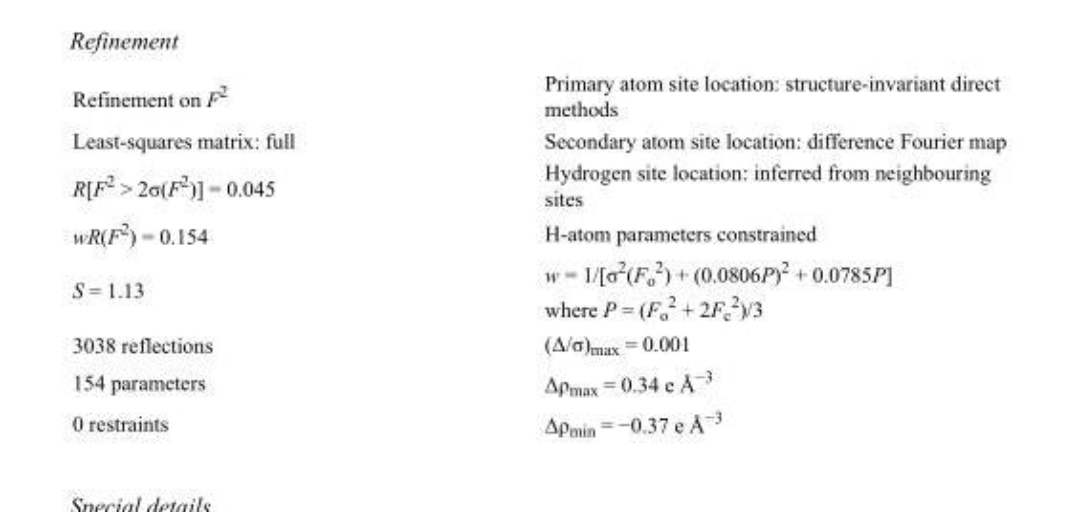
<table><tbody><tr><td>Refinement on F<sup>2</sup></td><td>Primary atom site location: structure-invariant direct methods</td></tr><tr><td>Least-squares matrix: full</td><td>Secondary atom site location: difference Fourier map</td></tr><tr><td>R[F<sup>2</sup> &gt; 2σ(F<sup>2</sup>)] = 0.045</td><td>Hydrogen site location: inferred from neighbouring sites</td></tr><tr><td>wR(F<sup>2</sup>) = 0.154</td><td>H-atom parameters constrained</td></tr><tr><td>S = 1.13</td><td>w = 1/[σ<sup>2</sup>(F<sub>o</sub> <sup>2</sup>) + (0.0806P)<sup>2</sup> + 0.0785P] where P = (F<sub>o</sub> <sup>2</sup> + 2F<sub>c</sub> <sup>2</sup>)/3</td></tr><tr><td>3038 reflections</td><td>(Δ/σ)<sub>max</sub> = 0.001</td></tr><tr><td>154 parameters</td><td>Δρ<sub>max</sub> = 0.34 e Å<sup>−3</sup></td></tr><tr><td>0 restraints</td><td>Δρ<sub>min</sub> = −0.37 e Å<sup>−3</sup></td></tr></tbody></table>